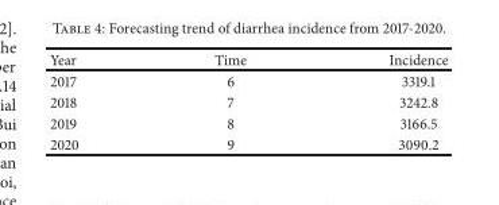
<table><thead><tr><td>Year</td><td>Time</td><td>Incidence</td></tr></thead><tbody><tr><td>2017</td><td>6</td><td>3319.1</td></tr><tr><td>2018</td><td>7</td><td>3242.8</td></tr><tr><td>2019</td><td>8</td><td>3166.5</td></tr><tr><td>2020</td><td>9</td><td>3090.2</td></tr></tbody></table>